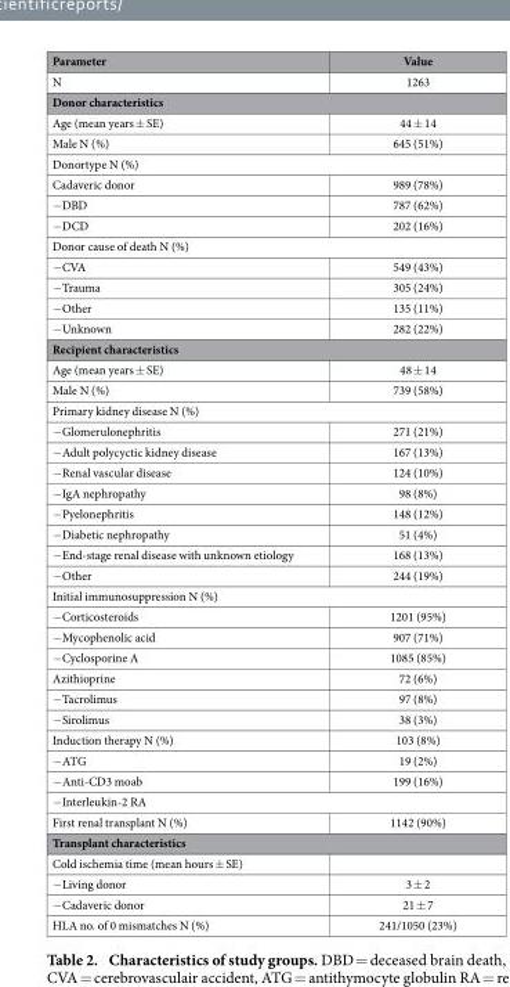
<table><thead><tr><td>Parameter</td><td>Value</td></tr></thead><tbody><tr><td>N</td><td>1263</td></tr><tr><td colspan="2">Donor characteristics</td></tr><tr><td>Age (mean years ± SE)</td><td>44 ± 14</td></tr><tr><td>Male N (%)</td><td>645 (51%)</td></tr><tr><td colspan="2">Donortype N (%)</td></tr><tr><td>Cadaveric donor</td><td>989 (78%)</td></tr><tr><td>− DBD</td><td>787 (62%)</td></tr><tr><td>− DCD</td><td>202 (16%)</td></tr><tr><td colspan="2">Donor cause of death N (%)</td></tr><tr><td>− CVA</td><td>549 (43%)</td></tr><tr><td>− Trauma</td><td>305 (24%)</td></tr><tr><td>− Other</td><td>135 (11%)</td></tr><tr><td>− Unknown</td><td>282 (22%)</td></tr><tr><td colspan="2">Recipient characteristics</td></tr><tr><td>Age (mean years ± SE)</td><td>48 ± 14</td></tr><tr><td>Male N (%)</td><td>739 (58%)</td></tr><tr><td colspan="2">Primary kidney disease N (%)</td></tr><tr><td>− Glomerulonephritis</td><td>271 (21%)</td></tr><tr><td>− Adult polycyctic kidney disease</td><td>167 (13%)</td></tr><tr><td>− Renal vascular disease</td><td>124 (10%)</td></tr><tr><td>− IgA nephropathy</td><td>98 (8%)</td></tr><tr><td>− Pyelonephritis</td><td>148 (12%)</td></tr><tr><td>− Diabetic nephropathy</td><td>51 (4%)</td></tr><tr><td>− End-stage renal disease with unknown etiology</td><td>168 (13%)</td></tr><tr><td>− Other</td><td>244 (19%)</td></tr><tr><td colspan="2">Initial immunosuppression N (%)</td></tr><tr><td>− Corticosteroids</td><td>1201 (95%)</td></tr><tr><td>− Mycophenolic acid</td><td>907 (71%)</td></tr><tr><td>− Cyclosporine A</td><td>1085 (85%)</td></tr><tr><td>Azithioprine</td><td>72 (6%)</td></tr><tr><td>− Tacrolimus</td><td>97 (8%)</td></tr><tr><td>− Sirolimus</td><td>38 (3%)</td></tr><tr><td>Induction therapy N (%)</td><td>103 (8%)</td></tr><tr><td>− ATG</td><td>19 (2%)</td></tr><tr><td>− Anti-CD3 moab</td><td>199 (16%)</td></tr><tr><td colspan="2">− Interleukin-2 RA</td></tr><tr><td>First renal transplant N (%)</td><td>1142 (90%)</td></tr><tr><td colspan="2">Transplant characteristics</td></tr><tr><td colspan="2">Cold ischemia time (mean hours ± SE)</td></tr><tr><td>− Living donor</td><td>3 ± 2</td></tr><tr><td>− Cadaveric donor</td><td>21 ± 7</td></tr><tr><td>HLA no. of 0 mismatches N (%)</td><td>241/1050 (23%)</td></tr></tbody></table>